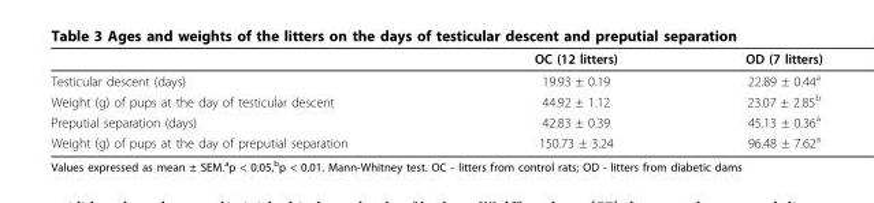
<table><thead><tr><td></td><td>OC (12 litters)</td><td>OD (7 litters)</td></tr></thead><tbody><tr><td>Testicular descent (days)</td><td>19.93 ± 0.19</td><td>22.89 ± 0.44<sup>a</sup></td></tr><tr><td>Weight (g) of pups at the day of testicular descent</td><td>44.92 ± 1.12</td><td>23.07 ± 2.85<sup>b</sup></td></tr><tr><td>Preputial separation (days)</td><td>42.83 ± 0.39</td><td>45.13 ± 0.36<sup>a</sup></td></tr><tr><td>Weight (g) of pups at the day of preputial separation</td><td>150.73 ± 3.24</td><td>96.48 ± 7.62<sup>a</sup></td></tr></tbody></table>